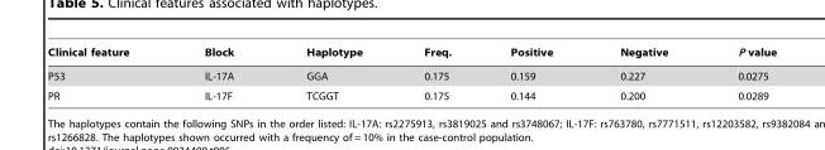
<table><thead><tr><td>Clinical feature</td><td>Block</td><td>Haplotype</td><td>Freq.</td><td>Positive</td><td>Negative</td><td>P value</td></tr></thead><tbody><tr><td>P53</td><td>IL-17A</td><td>GGA</td><td>0.175</td><td>0.159</td><td>0.227</td><td>0.0275</td></tr><tr><td>PR</td><td>IL-17F</td><td>TCGGT</td><td>0.175</td><td>0.144</td><td>0.200</td><td>0.0289</td></tr></tbody></table>